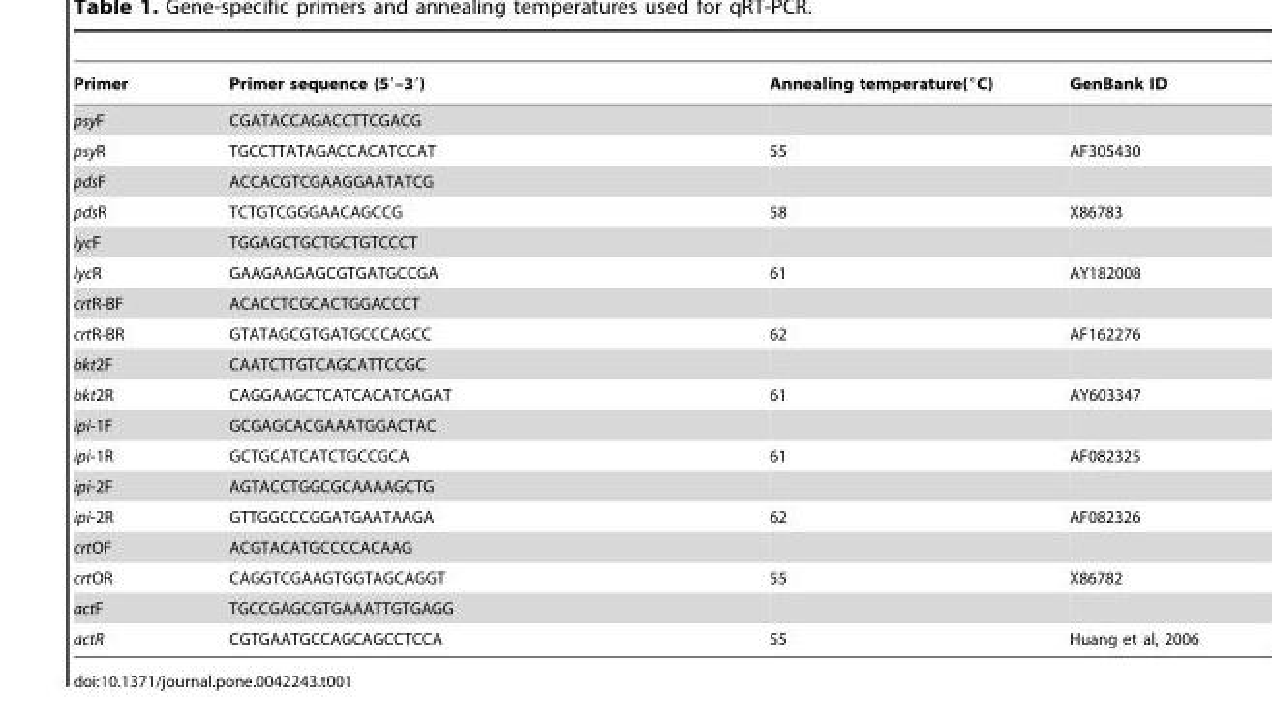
<table><thead><tr><td>Primer</td><td>Primer sequence (5′–3′)</td><td>Annealing temperature(°C)</td><td>GenBank ID</td></tr></thead><tbody><tr><td>psyF</td><td>CGATACCAGACCTTCGACG</td><td></td><td></td></tr><tr><td>psyR</td><td>TGCCTTATAGACCACATCCAT</td><td>55</td><td>AF305430</td></tr><tr><td>pdsF</td><td>ACCACGTCGAAGGAATATCG</td><td></td><td></td></tr><tr><td>pdsR</td><td>TCTGTCGGGAACAGCCG</td><td>58</td><td>X86783</td></tr><tr><td>lycF</td><td>TGGAGCTGCTGCTGTCCCT</td><td></td><td></td></tr><tr><td>lycR</td><td>GAAGAAGAGCGTGATGCCGA</td><td>61</td><td>AY182008</td></tr><tr><td>crtR-BF</td><td>ACACCTCGCACTGGACCCT</td><td></td><td></td></tr><tr><td>crtR-BR</td><td>GTATAGCGTGATGCCCAGCC</td><td>62</td><td>AF162276</td></tr><tr><td>bkt2F</td><td>CAATCTTGTCAGCATTCCGC</td><td></td><td></td></tr><tr><td>bkt2R</td><td>CAGGAAGCTCATCACATCAGAT</td><td>61</td><td>AY603347</td></tr><tr><td>ipi-1F</td><td>GCGAGCACGAAATGGACTAC</td><td></td><td></td></tr><tr><td>ipi-1R</td><td>GCTGCATCATCTGCCGCA</td><td>61</td><td>AF082325</td></tr><tr><td>ipi-2F</td><td>AGTACCTGGCGCAAAAGCTG</td><td></td><td></td></tr><tr><td>ipi-2R</td><td>GTTGGCCCGGATGAATAAGA</td><td>62</td><td>AF082326</td></tr><tr><td>crtOF</td><td>ACGTACATGCCCCACAAG</td><td></td><td></td></tr><tr><td>crtOR</td><td>CAGGTCGAAGTGGTAGCAGGT</td><td>55</td><td>X86782</td></tr><tr><td>actF</td><td>TGCCGAGCGTGAAATTGTGAGG</td><td></td><td></td></tr><tr><td>actR</td><td>CGTGAATGCCAGCAGCCTCCA</td><td>55</td><td>Huang et al, 2006</td></tr></tbody></table>